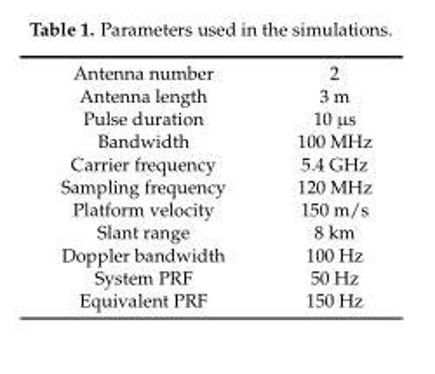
<table><tbody><tr><td>Antenna number</td><td>2</td></tr><tr><td>Antenna length</td><td>3 m</td></tr><tr><td>Pulse duration</td><td>10 µs</td></tr><tr><td>Bandwidth</td><td>100 MHz</td></tr><tr><td>Carrier frequency</td><td>5.4 GHz</td></tr><tr><td>Sampling frequency</td><td>120 MHz</td></tr><tr><td>Platform velocity</td><td>150 m/s</td></tr><tr><td>Slant range</td><td>8 km</td></tr><tr><td>Doppler bandwidth</td><td>100 Hz</td></tr><tr><td>System PRF</td><td>50 Hz</td></tr><tr><td>Equivalent PRF</td><td>150 Hz</td></tr></tbody></table>